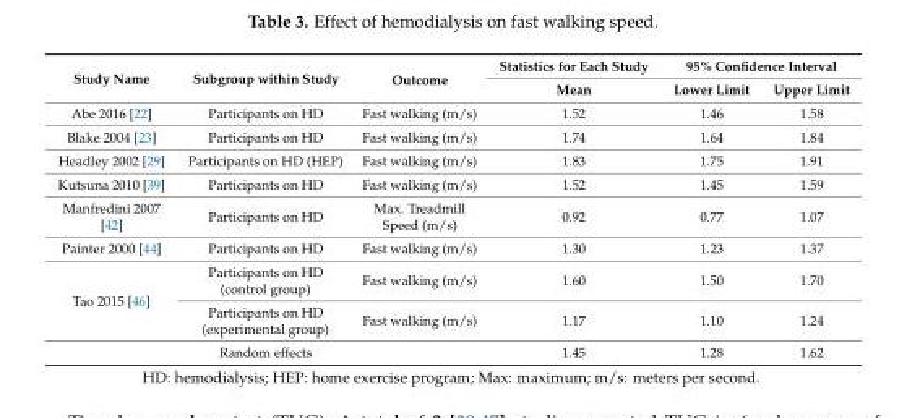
<table><thead><tr><td rowspan="2">Study Name</td><td rowspan="2">Subgroup within Study</td><td rowspan="2">Outcome</td><td rowspan="2">Statistics for Each Study Mean</td><td colspan="2">95% Confidence Interval</td></tr><tr><td>Lower Limit</td><td>Upper Limit</td></tr></thead><tbody><tr><td>Abe 2016 [22]</td><td>Participants on HD</td><td>Fast walking (m/s)</td><td>1.52</td><td>1.46</td><td>1.58</td></tr><tr><td>Blake 2004 [23]</td><td>Participants on HD</td><td>Fast walking (m/s)</td><td>1.74</td><td>1.64</td><td>1.84</td></tr><tr><td>Headley 2002 [29]</td><td>Participants on HD (HEP)</td><td>Fast walking (m/s)</td><td>1.83</td><td>1.75</td><td>1.91</td></tr><tr><td>Kutsuna 2010 [39]</td><td>Participants on HD</td><td>Fast walking (m/s)</td><td>1.52</td><td>1.45</td><td>1.59</td></tr><tr><td>Manfredini 2007 [42]</td><td>Participants on HD</td><td>Max. Treadmill Speed (m/s)</td><td>0.92</td><td>0.77</td><td>1.07</td></tr><tr><td>Painter 2000 [44]</td><td>Participants on HD</td><td>Fast walking (m/s)</td><td>1.30</td><td>1.23</td><td>1.37</td></tr><tr><td rowspan="3">Tao 2015 [46]</td><td>Participants on HD (control group)</td><td>Fast walking (m/s)</td><td>1.60</td><td>1.50</td><td>1.70</td></tr><tr><td>Participants on HD (experimental group)</td><td>Fast walking (m/s)</td><td>1.17</td><td>1.10</td><td>1.24</td></tr><tr><td>Random effects</td><td></td><td>1.45</td><td>1.28</td><td>1.62</td></tr></tbody></table>